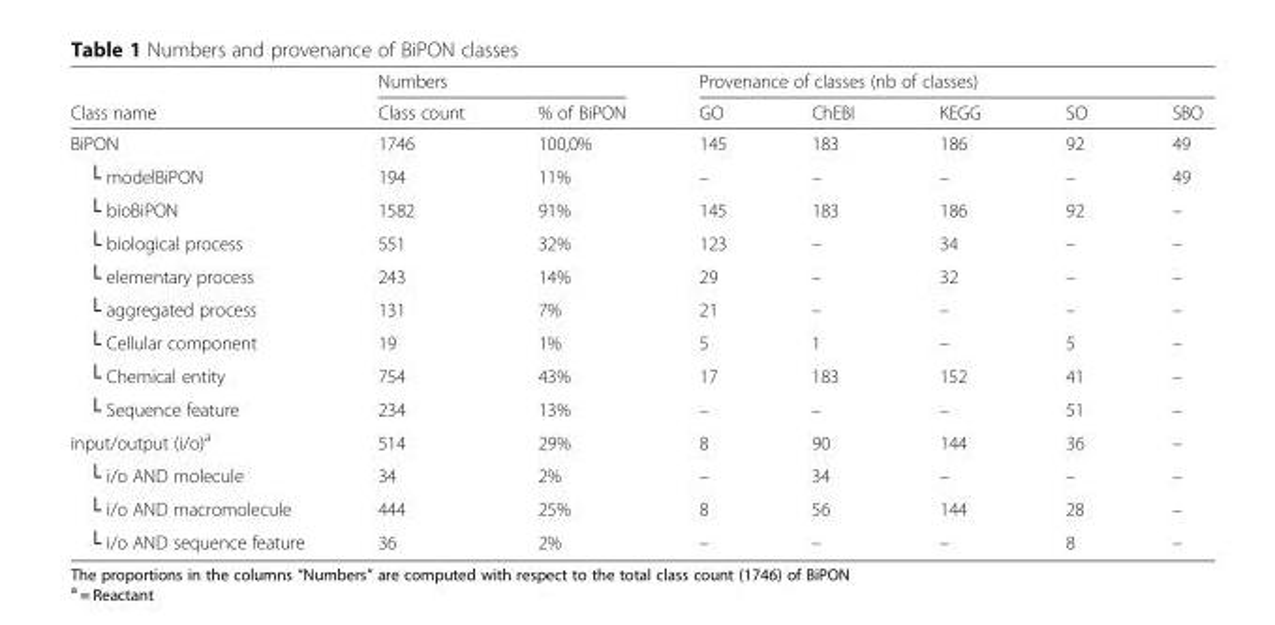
<table><thead><tr><td rowspan="2">Class name</td><td colspan="2">Numbers</td><td colspan="5">Provenance of classes (nb of classes)</td></tr><tr><td>Class count</td><td>% of BiPON</td><td>GO</td><td>ChEBI</td><td>KEGG</td><td>SO</td><td>SBO</td></tr></thead><tbody><tr><td>BiPON</td><td>1746</td><td>100,0%</td><td>145</td><td>183</td><td>186</td><td>92</td><td>49</td></tr><tr><td>└ modelBiPON</td><td>194</td><td>11%</td><td>–</td><td>–</td><td>–</td><td>–</td><td>49</td></tr><tr><td>└ bioBiPON</td><td>1582</td><td>91%</td><td>145</td><td>183</td><td>186</td><td>92</td><td>–</td></tr><tr><td>└ biological process</td><td>551</td><td>32%</td><td>123</td><td>–</td><td>34</td><td>–</td><td>–</td></tr><tr><td>└ elementary process</td><td>243</td><td>14%</td><td>29</td><td>–</td><td>32</td><td>–</td><td>–</td></tr><tr><td>└ aggregated process</td><td>131</td><td>7%</td><td>21</td><td>–</td><td>–</td><td>–</td><td>–</td></tr><tr><td>└ Cellular component</td><td>19</td><td>1%</td><td>5</td><td>1</td><td>–</td><td>5</td><td>–</td></tr><tr><td>└ Chemical entity</td><td>754</td><td>43%</td><td>17</td><td>183</td><td>152</td><td>41</td><td>–</td></tr><tr><td>└ Sequence feature</td><td>234</td><td>13%</td><td>–</td><td>–</td><td>–</td><td>51</td><td>–</td></tr><tr><td>input/output (i/o)<sup>a</sup></td><td>514</td><td>29%</td><td>8</td><td>90</td><td>144</td><td>36</td><td>–</td></tr><tr><td>└ i/o AND molecule</td><td>34</td><td>2%</td><td>–</td><td>34</td><td>–</td><td>–</td><td>–</td></tr><tr><td>└ i/o AND macromolecule</td><td>444</td><td>25%</td><td>8</td><td>56</td><td>144</td><td>28</td><td>–</td></tr><tr><td>└ i/o AND sequence feature</td><td>36</td><td>2%</td><td>–</td><td>–</td><td>–</td><td>8</td><td>–</td></tr></tbody></table>